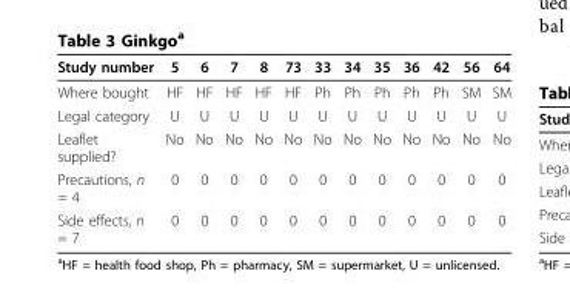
<table><thead><tr><td>Study number</td><td>5</td><td>6</td><td>7</td><td>8</td><td>73</td><td>33</td><td>34</td><td>35</td><td>36</td><td>42</td><td>56</td><td>64</td></tr></thead><tbody><tr><td>Where bought</td><td>HF</td><td>HF</td><td>HF</td><td>HF</td><td>HF</td><td>Ph</td><td>Ph</td><td>Ph</td><td>Ph</td><td>Ph</td><td>SM</td><td>SM</td></tr><tr><td>Legal category</td><td>U</td><td>U</td><td>U</td><td>U</td><td>U</td><td>U</td><td>U</td><td>U</td><td>U</td><td>U</td><td>U</td><td>U</td></tr><tr><td>Leaflet supplied?</td><td>No</td><td>No</td><td>No</td><td>No</td><td>No</td><td>No</td><td>No</td><td>No</td><td>No</td><td>No</td><td>No</td><td>No</td></tr><tr><td>Precautions, n = 4</td><td>0</td><td>0</td><td>0</td><td>0</td><td>0</td><td>0</td><td>0</td><td>0</td><td>0</td><td>0</td><td>0</td><td>0</td></tr><tr><td>Side effects, n = 7</td><td>0</td><td>0</td><td>0</td><td>0</td><td>0</td><td>0</td><td>0</td><td>0</td><td>0</td><td>0</td><td>0</td><td>0</td></tr></tbody></table>